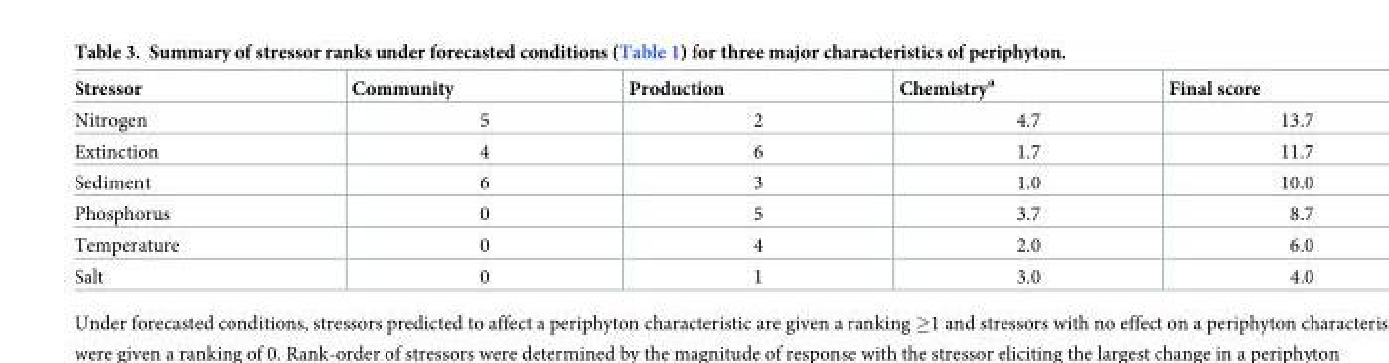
<table><thead><tr><td>Stressor</td><td>Community</td><td>Production</td><td>Chemistry<sup>a</sup></td><td>Final score</td></tr></thead><tbody><tr><td>Nitrogen</td><td>5</td><td>2</td><td>4.7</td><td>13.7</td></tr><tr><td>Extinction</td><td>4</td><td>6</td><td>1.7</td><td>11.7</td></tr><tr><td>Sediment</td><td>6</td><td>3</td><td>1.0</td><td>10.0</td></tr><tr><td>Phosphorus</td><td>0</td><td>5</td><td>3.7</td><td>8.7</td></tr><tr><td>Temperature</td><td>0</td><td>4</td><td>2.0</td><td>6.0</td></tr><tr><td>Salt</td><td>0</td><td>1</td><td>3.0</td><td>4.0</td></tr></tbody></table>